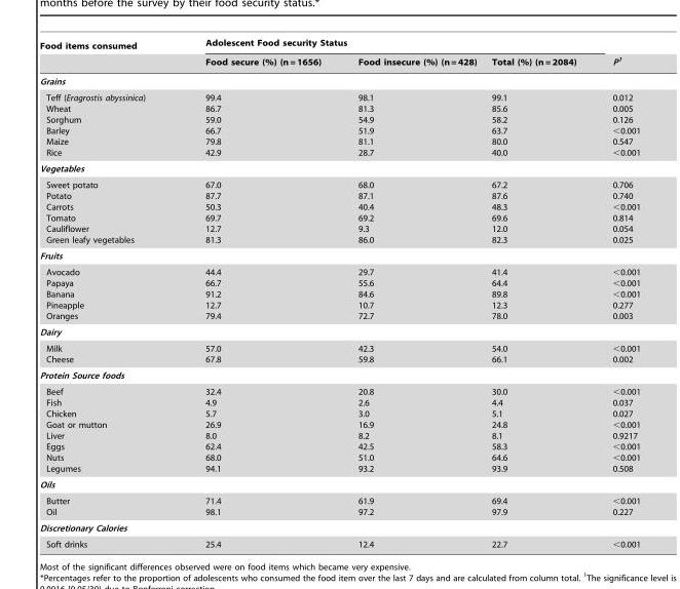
<table><thead><tr><td rowspan="2">Food items consumed</td><td colspan="3">Adolescent Food security Status</td><td rowspan="2">P<sup>1</sup></td></tr><tr><td>Food secure (%) (n = 1656)</td><td>Food insecure (%) (n = 428)</td><td>Total (%) (n = 2084)</td></tr></thead><tbody><tr><td colspan="5">Grains</td></tr><tr><td>Teff (Eragrostis abyssinica) Wheat Sorghum Barley Maize Rice</td><td>99.4 86.7 59.0 66.7 79.8 42.9</td><td>98.1 81.3 54.9 51.9 81.1 28.7</td><td>99.1 85.6 58.2 63.7 80.0 40.0</td><td>0.012 0.005 0.126 &lt;0.001 0.547 &lt;0.001</td></tr><tr><td colspan="5">Vegetables</td></tr><tr><td>Sweet potato Potato Carrots Tomato Cauliflower Green leafy vegetables</td><td>67.0 87.7 50.3 69.7 12.7 81.3</td><td>68.0 87.1 40.4 69.2 9.3 86.0</td><td>67.2 87.6 48.3 69.6 12.0 82.3</td><td>0.706 0.740 &lt;0.001 0.814 0.054 0.025</td></tr><tr><td colspan="5">Fruits</td></tr><tr><td>Avocado Papaya Banana Pineapple Oranges</td><td>44.4 66.7 91.2 12.7 79.4</td><td>29.7 55.6 84.6 10.7 72.7</td><td>41.4 64.4 89.8 12.3 78.0</td><td>&lt;0.001 &lt;0.001 &lt;0.001 0.277 0.003</td></tr><tr><td colspan="5">Dairy</td></tr><tr><td>Milk Cheese</td><td>57.0 67.8</td><td>42.3 59.8</td><td>54.0 66.1</td><td>&lt;0.001 0.002</td></tr><tr><td colspan="5">Protein Source foods</td></tr><tr><td>Beef Fish Chicken Goat or mutton Liver Eggs Nuts Legumes</td><td>32.4 4.9 5.7 26.9 8.0 62.4 68.0 94.1</td><td>20.8 2.6 3.0 16.9 8.2 42.5 51.0 93.2</td><td>30.0 4.4 5.1 24.8 8.1 58.3 64.6 93.9</td><td>&lt;0.001 0.037 0.027 &lt;0.001 0.9217 &lt;0.001 &lt;0.001 0.508</td></tr><tr><td colspan="5">Oils</td></tr><tr><td>Butter Oil</td><td>71.4 98.1</td><td>61.9 97.2</td><td>69.4 97.9</td><td>&lt;0.001 0.227</td></tr><tr><td colspan="5">Discretionary Calories</td></tr><tr><td>Soft drinks</td><td>25.4</td><td>12.4</td><td>22.7</td><td>&lt;0.001</td></tr></tbody></table>